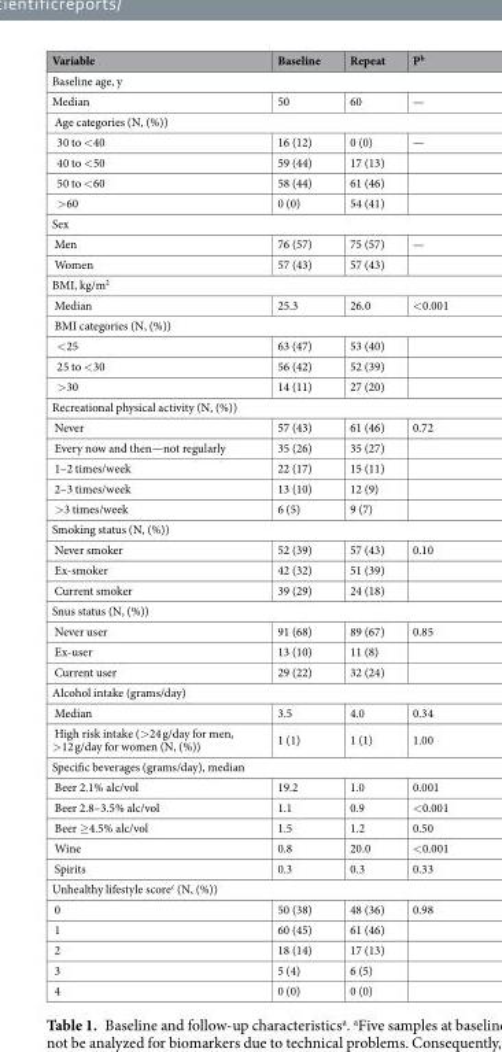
<table><thead><tr><td>Variable</td><td>Baseline</td><td>Repeat</td><td>P<sup>b</sup></td></tr></thead><tbody><tr><td colspan="4">Baseline age, y</td></tr><tr><td>Median</td><td>50</td><td>60</td><td>—</td></tr><tr><td colspan="4">Age categories (N, (%))</td></tr><tr><td>30 to &lt;40</td><td>16 (12)</td><td>0 (0)</td><td>—</td></tr><tr><td>40 to &lt;50</td><td>59 (44)</td><td>17 (13)</td><td></td></tr><tr><td>50 to &lt;60</td><td>58 (44)</td><td>61 (46)</td><td></td></tr><tr><td>&gt;60</td><td>0 (0)</td><td>54 (41)</td><td></td></tr><tr><td colspan="4">Sex</td></tr><tr><td>Men</td><td>76 (57)</td><td>75 (57)</td><td>—</td></tr><tr><td>Women</td><td>57 (43)</td><td>57 (43)</td><td></td></tr><tr><td colspan="4">BMI, kg/m<sup>2</sup></td></tr><tr><td>Median</td><td>25.3</td><td>26.0</td><td>&lt;0.001</td></tr><tr><td colspan="4">BMI categories (N, (%))</td></tr><tr><td>&lt;25</td><td>63 (47)</td><td>53 (40)</td><td></td></tr><tr><td>25 to &lt;30</td><td>56 (42)</td><td>52 (39)</td><td></td></tr><tr><td>&gt;30</td><td>14 (11)</td><td>27 (20)</td><td></td></tr><tr><td colspan="4">Recreational physical activity (N, (%))</td></tr><tr><td>Never</td><td>57 (43)</td><td>61 (46)</td><td>0.72</td></tr><tr><td>Every now and then—not regularly</td><td>35 (26)</td><td>35 (27)</td><td></td></tr><tr><td>1–2 times/week</td><td>22 (17)</td><td>15 (11)</td><td></td></tr><tr><td>2–3 times/week</td><td>13 (10)</td><td>12 (9)</td><td></td></tr><tr><td>&gt;3 times/week</td><td>6 (5)</td><td>9 (7)</td><td></td></tr><tr><td colspan="4">Smoking status (N, (%))</td></tr><tr><td>Never smoker</td><td>52 (39)</td><td>57 (43)</td><td>0.10</td></tr><tr><td>Ex-smoker</td><td>42 (32)</td><td>51 (39)</td><td></td></tr><tr><td>Current smoker</td><td>39 (29)</td><td>24 (18)</td><td></td></tr><tr><td colspan="4">Snus status (N, (%))</td></tr><tr><td>Never user</td><td>91 (68)</td><td>89 (67)</td><td>0.85</td></tr><tr><td>Ex-user</td><td>13 (10)</td><td>11 (8)</td><td></td></tr><tr><td>Current user</td><td>29 (22)</td><td>32 (24)</td><td></td></tr><tr><td colspan="4">Alcohol intake (grams/day)</td></tr><tr><td>Median</td><td>3.5</td><td>4.0</td><td>0.34</td></tr><tr><td>High risk intake (&gt;24 g/day for men, &gt;12 g/day for women (N, (%))</td><td>1 (1)</td><td>1 (1)</td><td>1.00</td></tr><tr><td colspan="4">Specific beverages (grams/day), median</td></tr><tr><td>Beer 2.1% alc/vol</td><td>19.2</td><td>1.0</td><td>0.001</td></tr><tr><td>Beer 2.8–3.5% alc/vol</td><td>1.1</td><td>0.9</td><td>&lt;0.001</td></tr><tr><td>Beer ≥4.5% alc/vol</td><td>1.5</td><td>1.2</td><td>0.50</td></tr><tr><td>Wine</td><td>0.8</td><td>20.0</td><td>&lt;0.001</td></tr><tr><td>Spirits</td><td>0.3</td><td>0.3</td><td>0.33</td></tr><tr><td colspan="4">Unhealthy lifestyle score<sup>c</sup> (N, (%))</td></tr><tr><td>0</td><td>50 (38)</td><td>48 (36)</td><td>0.98</td></tr><tr><td>1</td><td>60 (45)</td><td>61 (46)</td><td></td></tr><tr><td>2</td><td>18 (14)</td><td>17 (13)</td><td></td></tr><tr><td>3</td><td>5 (4)</td><td>6 (5)</td><td></td></tr><tr><td>4</td><td>0 (0)</td><td>0 (0)</td><td></td></tr></tbody></table>